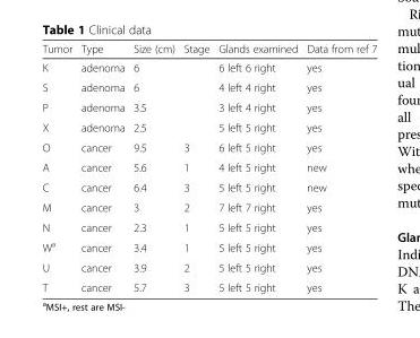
<table><thead><tr><td>Tumor</td><td>Type</td><td>Size (cm)</td><td>Stage</td><td>Glands examined</td><td>Data from ref 7</td></tr></thead><tbody><tr><td>K</td><td>adenoma</td><td>6</td><td></td><td>6 left 6 right</td><td>yes</td></tr><tr><td>S</td><td>adenoma</td><td>6</td><td></td><td>4 left 4 right</td><td>yes</td></tr><tr><td>P</td><td>adenoma</td><td>3.5</td><td></td><td>3 left 4 right</td><td>yes</td></tr><tr><td>X</td><td>adenoma</td><td>2.5</td><td></td><td>5 left 5 right</td><td>yes</td></tr><tr><td>O</td><td>cancer</td><td>9.5</td><td>3</td><td>6 left 5 right</td><td>yes</td></tr><tr><td>A</td><td>cancer</td><td>5.6</td><td>1</td><td>4 left 5 right</td><td>new</td></tr><tr><td>C</td><td>cancer</td><td>6.4</td><td>3</td><td>5 left 5 right</td><td>new</td></tr><tr><td>M</td><td>cancer</td><td>3</td><td>2</td><td>7 left 7 right</td><td>yes</td></tr><tr><td>N</td><td>cancer</td><td>2.3</td><td>1</td><td>5 left 5 right</td><td>yes</td></tr><tr><td>W<sup>a</sup></td><td>cancer</td><td>3.4</td><td>1</td><td>5 left 5 right</td><td>yes</td></tr><tr><td>U</td><td>cancer</td><td>3.9</td><td>2</td><td>5 left 5 right</td><td>yes</td></tr><tr><td>T</td><td>cancer</td><td>5.7</td><td>3</td><td>5 left 5 right</td><td>yes</td></tr></tbody></table>